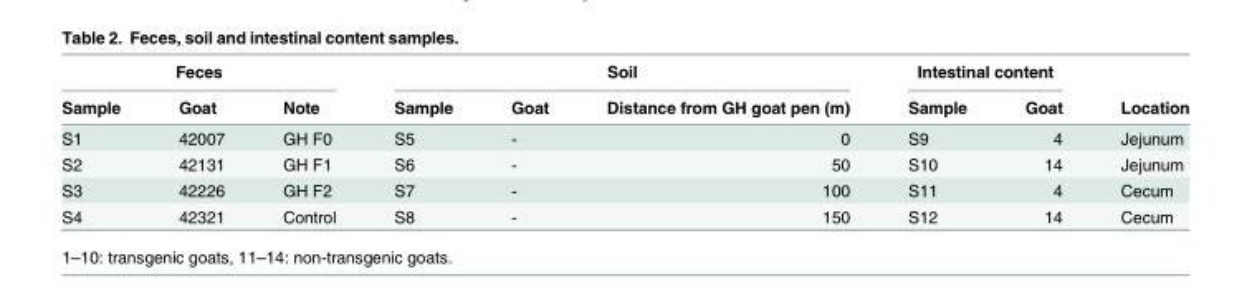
<table><thead><tr><td colspan="3">Feces</td><td colspan="3">Soil</td><td colspan="2">Intestinal content</td><td rowspan="2">Location</td></tr><tr><td>Sample</td><td>Goat</td><td>Note</td><td>Sample</td><td>Goat</td><td>Distance from GH goat pen (m)</td><td>Sample</td><td>Goat</td></tr></thead><tbody><tr><td>S1</td><td>42007</td><td>GH F0</td><td>S5</td><td>-</td><td>0</td><td>S9</td><td>4</td><td>Jejunum</td></tr><tr><td>S2</td><td>42131</td><td>GH F1</td><td>S6</td><td>-</td><td>50</td><td>S10</td><td>14</td><td>Jejunum</td></tr><tr><td>S3</td><td>42226</td><td>GH F2</td><td>S7</td><td>-</td><td>100</td><td>S11</td><td>4</td><td>Cecum</td></tr><tr><td>S4</td><td>42321</td><td>Control</td><td>S8</td><td>-</td><td>150</td><td>S12</td><td>14</td><td>Cecum</td></tr></tbody></table>